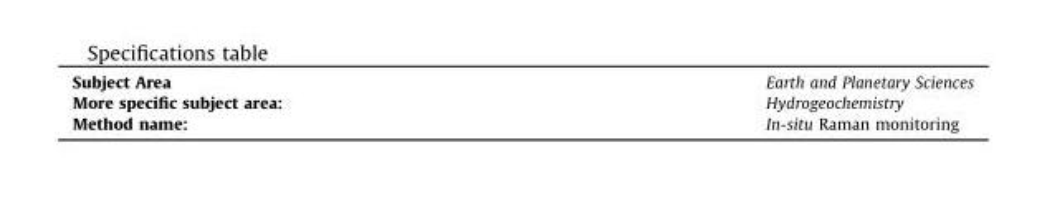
<table><tbody><tr><td>Subject Area</td><td>Earth and Planetary Sciences</td></tr><tr><td>More specific subject area:</td><td>Hydrogeochemistry</td></tr><tr><td>Method name:</td><td>In-situ Raman monitoring</td></tr></tbody></table>